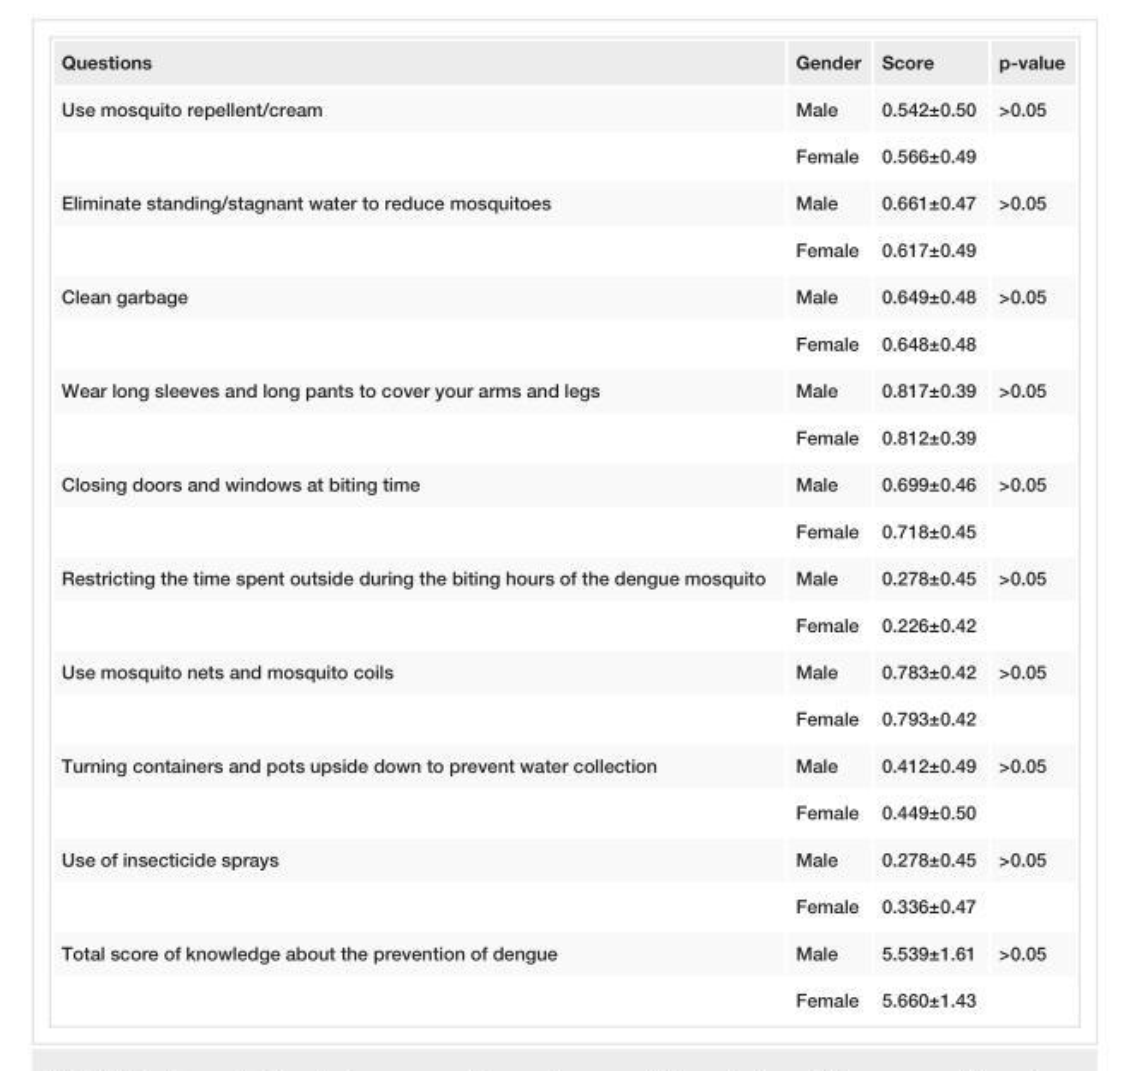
<table><tbody><tr><td>Questions</td><td>Gender</td><td>Score</td><td>p-value</td></tr><tr><td rowspan="2">Use mosquito repellent/cream</td><td>Male</td><td>0.542±0.50</td><td>&gt;0.05</td></tr><tr><td>Female</td><td>0.566±0.49</td><td></td></tr><tr><td rowspan="2">Eliminate standing/stagnant water to reduce mosquitoes</td><td>Male</td><td>0.661±0.47</td><td>&gt;0.05</td></tr><tr><td>Female</td><td>0.617±0.49</td><td></td></tr><tr><td rowspan="2">Clean garbage</td><td>Male</td><td>0.649±0.48</td><td>&gt;0.05</td></tr><tr><td>Female</td><td>0.648±0.48</td><td></td></tr><tr><td rowspan="2">Wear long sleeves and long pants to cover your arms and legs</td><td>Male</td><td>0.817±0.39</td><td>&gt;0.05</td></tr><tr><td>Female</td><td>0.812±0.39</td><td></td></tr><tr><td rowspan="2">Closing doors and windows at biting time</td><td>Male</td><td>0.699±0.46</td><td>&gt;0.05</td></tr><tr><td>Female</td><td>0.718±0.45</td><td></td></tr><tr><td rowspan="2">Restricting the time spent outside during the biting hours of the dengue mosquito</td><td>Male</td><td>0.278±0.45</td><td>&gt;0.05</td></tr><tr><td>Female</td><td>0.226±0.42</td><td></td></tr><tr><td rowspan="2">Use mosquito nets and mosquito coils</td><td>Male</td><td>0.783±0.42</td><td>&gt;0.05</td></tr><tr><td>Female</td><td>0.793±0.42</td><td></td></tr><tr><td rowspan="2">Turning containers and pots upside down to prevent water collection</td><td>Male</td><td>0.412±0.49</td><td>&gt;0.05</td></tr><tr><td>Female</td><td>0.449±0.50</td><td></td></tr><tr><td rowspan="2">Use of insecticide sprays</td><td>Male</td><td>0.278±0.45</td><td>&gt;0.05</td></tr><tr><td>Female</td><td>0.336±0.47</td><td></td></tr><tr><td rowspan="2">Total score of knowledge about the prevention of dengue</td><td>Male</td><td>5.539±1.61</td><td>&gt;0.05</td></tr><tr><td>Female</td><td>5.660±1.43</td><td></td></tr></tbody></table>